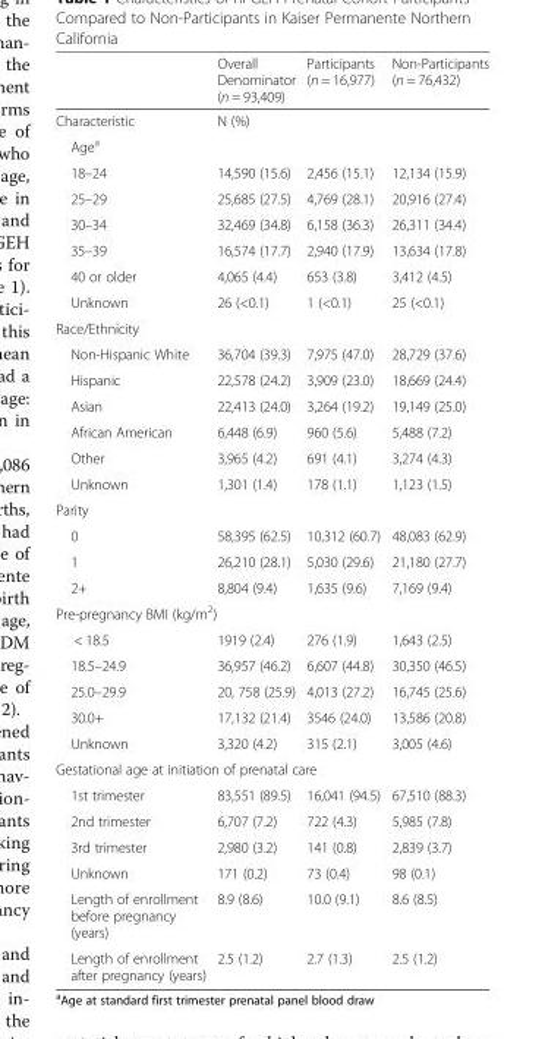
<table><thead><tr><td></td><td>Overall Denominator (n = 93,409)</td><td>Participants (n = 16,977)</td><td>Non-Participants (n = 76,432)</td></tr></thead><tbody><tr><td>Characteristic</td><td colspan="3">N (%)</td></tr><tr><td colspan="4">Age<sup>a</sup></td></tr><tr><td>18–24</td><td>14,590 (15.6)</td><td>2,456 (15.1)</td><td>12,134 (15.9)</td></tr><tr><td>25–29</td><td>25,685 (27.5)</td><td>4,769 (28.1)</td><td>20,916 (27.4)</td></tr><tr><td>30–34</td><td>32,469 (34.8)</td><td>6,158 (36.3)</td><td>26,311 (34.4)</td></tr><tr><td>35–39</td><td>16,574 (17.7)</td><td>2,940 (17.9)</td><td>13,634 (17.8)</td></tr><tr><td>40 or older</td><td>4,065 (4.4)</td><td>653 (3.8)</td><td>3,412 (4.5)</td></tr><tr><td>Unknown</td><td>26 (&lt;0.1)</td><td>1 (&lt;0.1)</td><td>25 (&lt;0.1)</td></tr><tr><td colspan="4">Race/Ethnicity</td></tr><tr><td>Non-Hispanic White</td><td>36,704 (39.3)</td><td>7,975 (47.0)</td><td>28,729 (37.6)</td></tr><tr><td>Hispanic</td><td>22,578 (24.2)</td><td>3,909 (23.0)</td><td>18,669 (24.4)</td></tr><tr><td>Asian</td><td>22,413 (24.0)</td><td>3,264 (19.2)</td><td>19,149 (25.0)</td></tr><tr><td>African American</td><td>6,448 (6.9)</td><td>960 (5.6)</td><td>5,488 (7.2)</td></tr><tr><td>Other</td><td>3,965 (4.2)</td><td>691 (4.1)</td><td>3,274 (4.3)</td></tr><tr><td>Unknown</td><td>1,301 (1.4)</td><td>178 (1.1)</td><td>1,123 (1.5)</td></tr><tr><td colspan="4">Parity</td></tr><tr><td>0</td><td>58,395 (62.5)</td><td>10,312 (60.7)</td><td>48,083 (62.9)</td></tr><tr><td>1</td><td>26,210 (28.1)</td><td>5,030 (29.6)</td><td>21,180 (27.7)</td></tr><tr><td>2+</td><td>8,804 (9.4)</td><td>1,635 (9.6)</td><td>7,169 (9.4)</td></tr><tr><td colspan="4">Pre-pregnancy BMI (kg/m<sup>2</sup>)</td></tr><tr><td>&lt; 18.5</td><td>1919 (2.4)</td><td>276 (1.9)</td><td>1,643 (2.5)</td></tr><tr><td>18.5–24.9</td><td>36,957 (46.2)</td><td>6,607 (44.8)</td><td>30,350 (46.5)</td></tr><tr><td>25.0–29.9</td><td>20, 758 (25.9)</td><td>4,013 (27.2)</td><td>16,745 (25.6)</td></tr><tr><td>30.0+</td><td>17,132 (21.4)</td><td>3546 (24.0)</td><td>13,586 (20.8)</td></tr><tr><td>Unknown</td><td>3,320 (4.2)</td><td>315 (2.1)</td><td>3,005 (4.6)</td></tr><tr><td colspan="4">Gestational age at initiation of prenatal care</td></tr><tr><td>1st trimester</td><td>83,551 (89.5)</td><td>16,041 (94.5)</td><td>67,510 (88.3)</td></tr><tr><td>2nd trimester</td><td>6,707 (7.2)</td><td>722 (4.3)</td><td>5,985 (7.8)</td></tr><tr><td>3rd trimester</td><td>2,980 (3.2)</td><td>141 (0.8)</td><td>2,839 (3.7)</td></tr><tr><td>Unknown</td><td>171 (0.2)</td><td>73 (0.4)</td><td>98 (0.1)</td></tr><tr><td>Length of enrollment before pregnancy (years)</td><td>8.9 (8.6)</td><td>10.0 (9.1)</td><td>8.6 (8.5)</td></tr><tr><td>Length of enrollment after pregnancy (years)</td><td>2.5 (1.2)</td><td>2.7 (1.3)</td><td>2.5 (1.2)</td></tr></tbody></table>